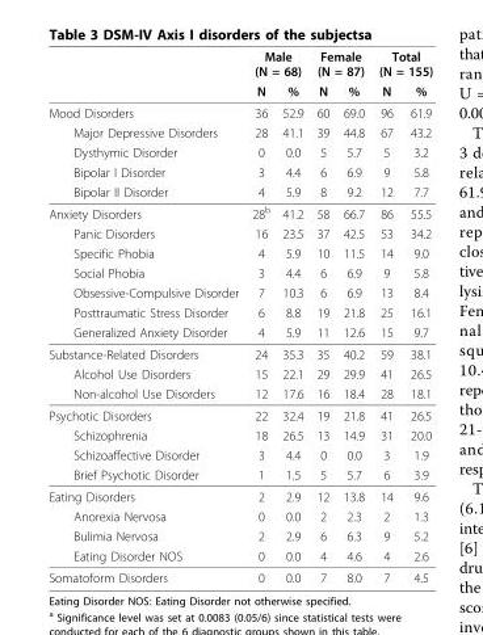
<table><thead><tr><td rowspan="2"></td><td colspan="2">Male (N = 68)</td><td colspan="2">Female (N = 87)</td><td colspan="2">Total (N = 155)</td></tr><tr><td>N</td><td>%</td><td>N</td><td>%</td><td>N</td><td>%</td></tr></thead><tbody><tr><td>Mood Disorders</td><td>36</td><td>52.9</td><td>60</td><td>69.0</td><td>96</td><td>61.9</td></tr><tr><td>Major Depressive Disorders</td><td>28</td><td>41.1</td><td>39</td><td>44.8</td><td>67</td><td>43.2</td></tr><tr><td>Dysthymic Disorder</td><td>0</td><td>0.0</td><td>5</td><td>5.7</td><td>5</td><td>3.2</td></tr><tr><td>Bipolar I Disorder</td><td>3</td><td>4.4</td><td>6</td><td>6.9</td><td>9</td><td>5.8</td></tr><tr><td>Bipolar II Disorder</td><td>4</td><td>5.9</td><td>8</td><td>9.2</td><td>12</td><td>7.7</td></tr><tr><td>Anxiety Disorders</td><td>28<sup>b</sup></td><td>41.2</td><td>58</td><td>66.7</td><td>86</td><td>55.5</td></tr><tr><td>Panic Disorders</td><td>16</td><td>23.5</td><td>37</td><td>42.5</td><td>53</td><td>34.2</td></tr><tr><td>Specific Phobia</td><td>4</td><td>5.9</td><td>10</td><td>11.5</td><td>14</td><td>9.0</td></tr><tr><td>Social Phobia</td><td>3</td><td>4.4</td><td>6</td><td>6.9</td><td>9</td><td>5.8</td></tr><tr><td>Obsessive-Compulsive Disorder</td><td>7</td><td>10.3</td><td>6</td><td>6.9</td><td>13</td><td>8.4</td></tr><tr><td>Posttraumatic Stress Disorder</td><td>6</td><td>8.8</td><td>19</td><td>21.8</td><td>25</td><td>16.1</td></tr><tr><td>Generalized Anxiety Disorder</td><td>4</td><td>5.9</td><td>11</td><td>12.6</td><td>15</td><td>9.7</td></tr><tr><td>Substance-Related Disorders</td><td>24</td><td>35.3</td><td>35</td><td>40.2</td><td>59</td><td>38.1</td></tr><tr><td>Alcohol Use Disorders</td><td>15</td><td>22.1</td><td>29</td><td>29.9</td><td>41</td><td>26.5</td></tr><tr><td>Non-alcohol Use Disorders</td><td>12</td><td>17.6</td><td>16</td><td>18.4</td><td>28</td><td>18.1</td></tr><tr><td>Psychotic Disorders</td><td>22</td><td>32.4</td><td>19</td><td>21.8</td><td>41</td><td>26.5</td></tr><tr><td>Schizophrenia</td><td>18</td><td>26.5</td><td>13</td><td>14.9</td><td>31</td><td>20.0</td></tr><tr><td>Schizoaffective Disorder</td><td>3</td><td>4.4</td><td>0</td><td>0.0</td><td>3</td><td>1.9</td></tr><tr><td>Brief Psychotic Disorder</td><td>1</td><td>1.5</td><td>5</td><td>5.7</td><td>6</td><td>3.9</td></tr><tr><td>Eating Disorders</td><td>2</td><td>2.9</td><td>12</td><td>13.8</td><td>14</td><td>9.6</td></tr><tr><td>Anorexia Nervosa</td><td>0</td><td>0.0</td><td>2</td><td>2.3</td><td>2</td><td>1.3</td></tr><tr><td>Bulimia Nervosa</td><td>2</td><td>2.9</td><td>6</td><td>6.3</td><td>9</td><td>5.2</td></tr><tr><td>Eating Disorder NOS</td><td>0</td><td>0.0</td><td>4</td><td>4.6</td><td>4</td><td>2.6</td></tr><tr><td>Somatoform Disorders</td><td>0</td><td>0.0</td><td>7</td><td>8.0</td><td>7</td><td>4.5</td></tr></tbody></table>